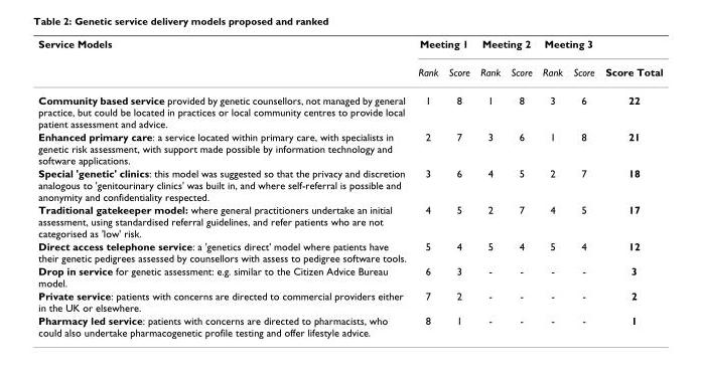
<table><thead><tr><td rowspan="2">Service Models</td><td colspan="2">Meeting 1</td><td colspan="2">Meeting 2</td><td colspan="2">Meeting 3</td><td rowspan="2">Score Total</td></tr><tr><td>Rank</td><td>Score</td><td>Rank</td><td>Score</td><td>Rank</td><td>Score</td></tr></thead><tbody><tr><td>Community based service provided by genetic counsellors, not managed by general practice, but could be located in practices or local community centres to provide local patient assessment and advice.</td><td>1</td><td>8</td><td>1</td><td>8</td><td>3</td><td>6</td><td>22</td></tr><tr><td>Enhanced primary care: a service located within primary care, with specialists in genetic risk assessment, with support made possible by information technology and software applications.</td><td>2</td><td>7</td><td>3</td><td>6</td><td>1</td><td>8</td><td>21</td></tr><tr><td>Special &#x27;genetic&#x27; clinics: this model was suggested so that the privacy and discretion analogous to &#x27;genitourinary clinics&#x27; was built in, and where self-referral is possible and anonymity and confidentiality respected.</td><td>3</td><td>6</td><td>4</td><td>5</td><td>2</td><td>7</td><td>18</td></tr><tr><td>Traditional gatekeeper model: where general practitioners undertake an initial assessment, using standardised referral guidelines, and refer patients who are not categorised as &#x27;low&#x27; risk.</td><td>4</td><td>5</td><td>2</td><td>7</td><td>4</td><td>5</td><td>17</td></tr><tr><td>Direct access telephone service: a &#x27;genetics direct&#x27; model where patients have their genetic pedigrees assessed by counsellors with assess to pedigree software tools.</td><td>5</td><td>4</td><td>5</td><td>4</td><td>5</td><td>4</td><td>12</td></tr><tr><td>Drop in service for genetic assessment: e.g. similar to the Citizen Advice Bureau model.</td><td>6</td><td>3</td><td>-</td><td>-</td><td>-</td><td>-</td><td>3</td></tr><tr><td>Private service: patients with concerns are directed to commercial providers either in the UK or elsewhere.</td><td>7</td><td>2</td><td>-</td><td>-</td><td>-</td><td>-</td><td>2</td></tr><tr><td>Pharmacy led service: patients with concerns are directed to pharmacists, who could also undertake pharmacogenetic profile testing and offer lifestyle advice.</td><td>8</td><td>1</td><td>-</td><td>-</td><td>-</td><td>-</td><td>1</td></tr></tbody></table>